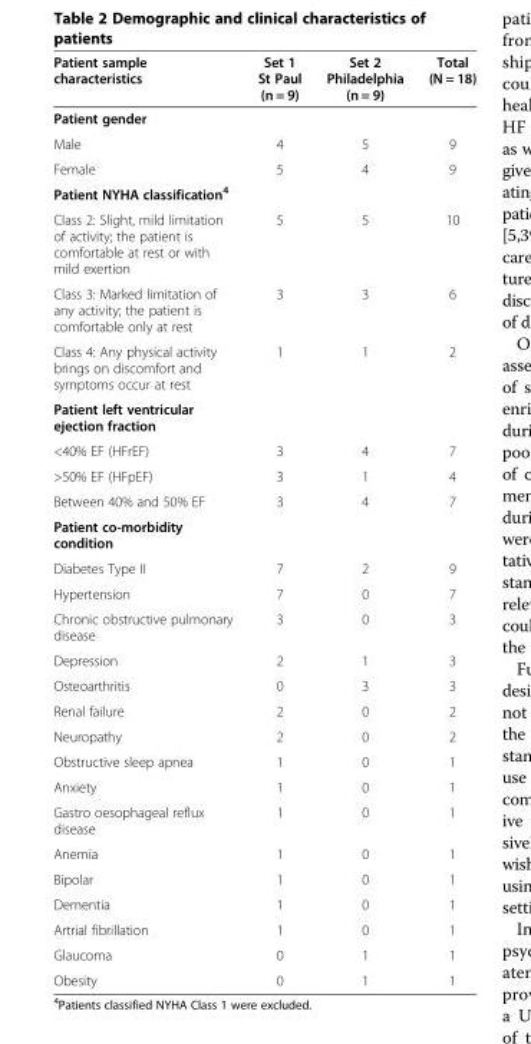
<table><thead><tr><td>Patient sample characteristics</td><td>Set 1 St Paul (n = 9)</td><td>Set 2 Philadelphia (n = 9)</td><td>Total (N = 18)</td></tr></thead><tbody><tr><td colspan="4">Patient gender</td></tr><tr><td>Male</td><td>4</td><td>5</td><td>9</td></tr><tr><td>Female</td><td>5</td><td>4</td><td>9</td></tr><tr><td colspan="4">Patient NYHA classification<sup>4</sup></td></tr><tr><td>Class 2: Slight, mild limitation of activity; the patient is comfortable at rest or with mild exertion</td><td>5</td><td>5</td><td>10</td></tr><tr><td>Class 3: Marked limitation of any activity; the patient is comfortable only at rest</td><td>3</td><td>3</td><td>6</td></tr><tr><td>Class 4: Any physical activity brings on discomfort and symptoms occur at rest</td><td>1</td><td>1</td><td>2</td></tr><tr><td colspan="4">Patient left ventricular ejection fraction</td></tr><tr><td>&lt;40% EF (HFrEF)</td><td>3</td><td>4</td><td>7</td></tr><tr><td>&gt;50% EF (HFpEF)</td><td>3</td><td>1</td><td>4</td></tr><tr><td>Between 40% and 50% EF</td><td>3</td><td>4</td><td>7</td></tr><tr><td colspan="4">Patient co-morbidity condition</td></tr><tr><td>Diabetes Type II</td><td>7</td><td>2</td><td>9</td></tr><tr><td>Hypertension</td><td>7</td><td>0</td><td>7</td></tr><tr><td>Chronic obstructive pulmonary disease</td><td>3</td><td>0</td><td>3</td></tr><tr><td>Depression</td><td>2</td><td>1</td><td>3</td></tr><tr><td>Osteoarthritis</td><td>0</td><td>3</td><td>3</td></tr><tr><td>Renal failure</td><td>2</td><td>0</td><td>2</td></tr><tr><td>Neuropathy</td><td>2</td><td>0</td><td>2</td></tr><tr><td>Obstructive sleep apnea</td><td>1</td><td>0</td><td>1</td></tr><tr><td>Anxiety</td><td>1</td><td>0</td><td>1</td></tr><tr><td>Gastro oesophageal reflux disease</td><td>1</td><td>0</td><td>1</td></tr><tr><td>Anemia</td><td>1</td><td>0</td><td>1</td></tr><tr><td>Bipolar</td><td>1</td><td>0</td><td>1</td></tr><tr><td>Dementia</td><td>1</td><td>0</td><td>1</td></tr><tr><td>Artrial fibrillation</td><td>1</td><td>0</td><td>1</td></tr><tr><td>Glaucoma</td><td>0</td><td>1</td><td>1</td></tr><tr><td>Obesity</td><td>0</td><td>1</td><td>1</td></tr></tbody></table>